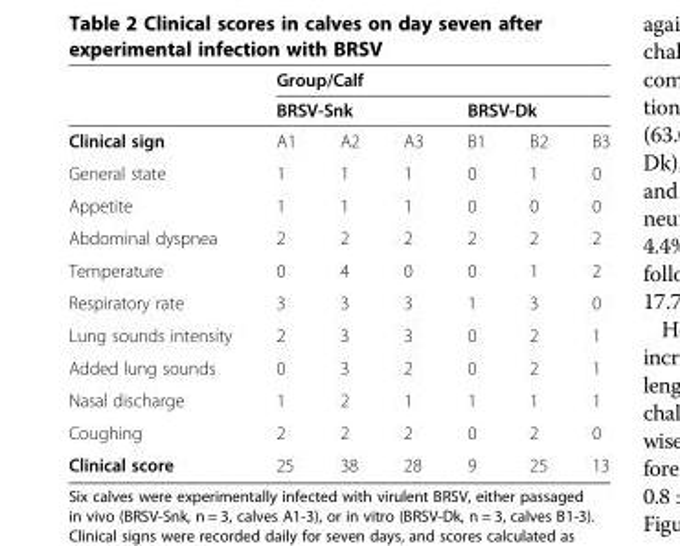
<table><thead><tr><td rowspan="3">Clinical sign</td><td colspan="6">Group/Calf</td></tr><tr><td colspan="3">BRSV-Snk</td><td colspan="3">BRSV-Dk</td></tr><tr><td>A1</td><td>A2</td><td>A3</td><td>B1</td><td>B2</td><td>B3</td></tr></thead><tbody><tr><td>General state</td><td>1</td><td>1</td><td>1</td><td>0</td><td>1</td><td>0</td></tr><tr><td>Appetite</td><td>1</td><td>1</td><td>1</td><td>0</td><td>0</td><td>0</td></tr><tr><td>Abdominal dyspnea</td><td>2</td><td>2</td><td>2</td><td>2</td><td>2</td><td>2</td></tr><tr><td>Temperature</td><td>0</td><td>4</td><td>0</td><td>0</td><td>1</td><td>2</td></tr><tr><td>Respiratory rate</td><td>3</td><td>3</td><td>3</td><td>1</td><td>3</td><td>0</td></tr><tr><td>Lung sounds intensity</td><td>2</td><td>3</td><td>3</td><td>0</td><td>2</td><td>1</td></tr><tr><td>Added lung sounds</td><td>0</td><td>3</td><td>2</td><td>0</td><td>2</td><td>1</td></tr><tr><td>Nasal discharge</td><td>1</td><td>2</td><td>1</td><td>1</td><td>1</td><td>1</td></tr><tr><td>Coughing</td><td>2</td><td>2</td><td>2</td><td>0</td><td>2</td><td>0</td></tr><tr><td>Clinical score</td><td>25</td><td>38</td><td>28</td><td>9</td><td>25</td><td>13</td></tr></tbody></table>